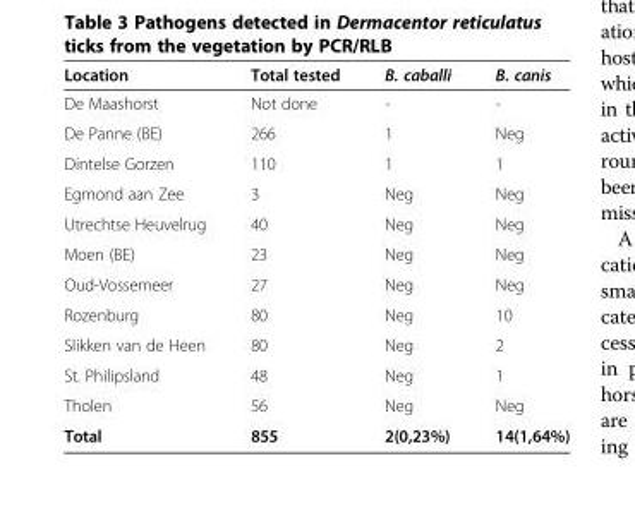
<table><thead><tr><td>Location</td><td>Total tested</td><td>B. caballi</td><td>B. canis</td></tr></thead><tbody><tr><td>De Maashorst</td><td>Not done</td><td>-</td><td>-</td></tr><tr><td>De Panne (BE)</td><td>266</td><td>1</td><td>Neg</td></tr><tr><td>Dintelse Gorzen</td><td>110</td><td>1</td><td>1</td></tr><tr><td>Egmond aan Zee</td><td>3</td><td>Neg</td><td>Neg</td></tr><tr><td>Utrechtse Heuvelrug</td><td>40</td><td>Neg</td><td>Neg</td></tr><tr><td>Moen (BE)</td><td>23</td><td>Neg</td><td>Neg</td></tr><tr><td>Oud-Vossemeer</td><td>27</td><td>Neg</td><td>Neg</td></tr><tr><td>Rozenburg</td><td>80</td><td>Neg</td><td>10</td></tr><tr><td>Slikken van de Heen</td><td>80</td><td>Neg</td><td>2</td></tr><tr><td>St. Philipsland</td><td>48</td><td>Neg</td><td>1</td></tr><tr><td>Tholen</td><td>56</td><td>Neg</td><td>Neg</td></tr><tr><td>Total</td><td>855</td><td>2(0,23%)</td><td>14(1,64%)</td></tr></tbody></table>